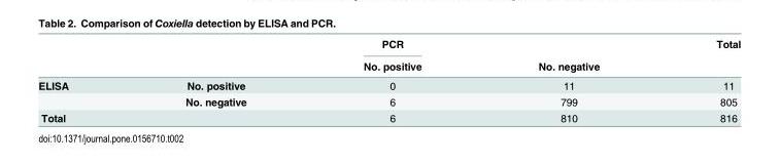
<table><thead><tr><td rowspan="2"></td><td rowspan="2"></td><td rowspan="2">PCR No. positive</td><td rowspan="2">No. negative</td><td rowspan="2">Total</td></tr><tr></tr></thead><tbody><tr><td rowspan="2">ELISA</td><td>No. positive</td><td>0</td><td>11</td><td>11</td></tr><tr><td>No. negative</td><td>6</td><td>799</td><td>805</td></tr><tr><td>Total</td><td></td><td>6</td><td>810</td><td>816</td></tr></tbody></table>